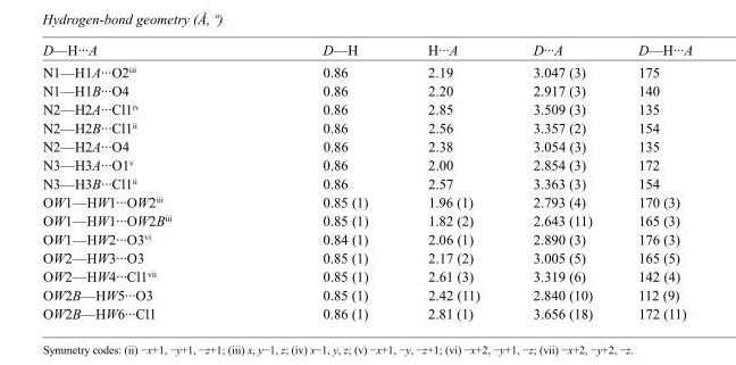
<table><tbody><tr><td>D—H···A</td><td>D—H</td><td>H···A</td><td>D···A</td><td>D—H···A</td></tr><tr><td>N1—H1A···O2<sup>iii</sup></td><td>0.86</td><td>2.19</td><td>3.047 (3)</td><td>175</td></tr><tr><td>N1—H1B···O4</td><td>0.86</td><td>2.20</td><td>2.917 (3)</td><td>140</td></tr><tr><td>N2—H2A···Cl1<sup>iv</sup></td><td>0.86</td><td>2.85</td><td>3.509 (3)</td><td>135</td></tr><tr><td>N2—H2B···Cl1<sup>ii</sup></td><td>0.86</td><td>2.56</td><td>3.357 (2)</td><td>154</td></tr><tr><td>N2—H2A···O4</td><td>0.86</td><td>2.38</td><td>3.054 (3)</td><td>135</td></tr><tr><td>N3—H3A···O1<sup>v</sup></td><td>0.86</td><td>2.00</td><td>2.854 (3)</td><td>172</td></tr><tr><td>N3—H3B···Cl1<sup>ii</sup></td><td>0.86</td><td>2.57</td><td>3.363 (3)</td><td>154</td></tr><tr><td>OW1—HW1···OW2<sup>iii</sup></td><td>0.85 (1)</td><td>1.96 (1)</td><td>2.793 (4)</td><td>170 (3)</td></tr><tr><td>OW1—HW1···OW2B<sup>iii</sup></td><td>0.85 (1)</td><td>1.82 (2)</td><td>2.643 (11)</td><td>165 (3)</td></tr><tr><td>OW1—HW2···O3<sup>vi</sup></td><td>0.84 (1)</td><td>2.06 (1)</td><td>2.890 (3)</td><td>176 (3)</td></tr><tr><td>OW2—HW3···O3</td><td>0.85 (1)</td><td>2.17 (2)</td><td>3.005 (5)</td><td>165 (5)</td></tr><tr><td>OW2—HW4···Cl1<sup>vii</sup></td><td>0.85 (1)</td><td>2.61 (3)</td><td>3.319 (6)</td><td>142 (4)</td></tr><tr><td>OW2B—HW5···O3</td><td>0.85 (1)</td><td>2.42 (11)</td><td>2.840 (10)</td><td>112 (9)</td></tr><tr><td>OW2B—HW6···Cl1</td><td>0.86 (1)</td><td>2.81 (1)</td><td>3.656 (18)</td><td>172 (11)</td></tr></tbody></table>